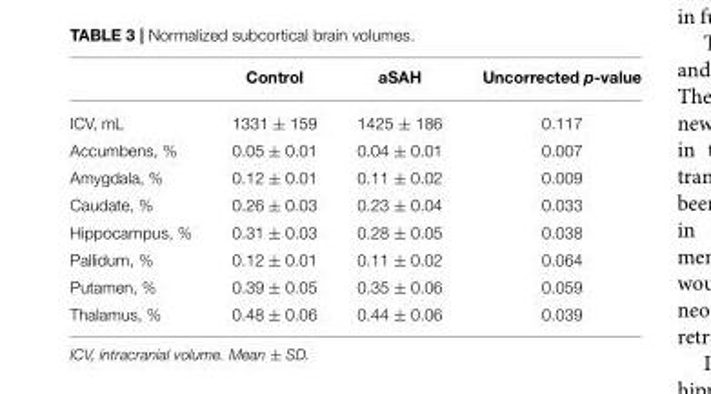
<table><thead><tr><td></td><td>Control</td><td>aSAH</td><td>Uncorrected p-value</td></tr></thead><tbody><tr><td>ICV, mL</td><td>1331 ± 159</td><td>1425 ± 186</td><td>0.117</td></tr><tr><td>Accumbens, %</td><td>0.05 ± 0.01</td><td>0.04 ± 0.01</td><td>0.007</td></tr><tr><td>Amygdala, %</td><td>0.12 ± 0.01</td><td>0.11 ± 0.02</td><td>0.009</td></tr><tr><td>Caudate, %</td><td>0.26 ± 0.03</td><td>0.23 ± 0.04</td><td>0.033</td></tr><tr><td>Hippocampus, %</td><td>0.31 ± 0.03</td><td>0.28 ± 0.05</td><td>0.038</td></tr><tr><td>Pallidum, %</td><td>0.12 ± 0.01</td><td>0.11 ± 0.02</td><td>0.064</td></tr><tr><td>Putamen, %</td><td>0.39 ± 0.05</td><td>0.35 ± 0.06</td><td>0.059</td></tr><tr><td>Thalamus, %</td><td>0.48 ± 0.06</td><td>0.44 ± 0.06</td><td>0.039</td></tr></tbody></table>